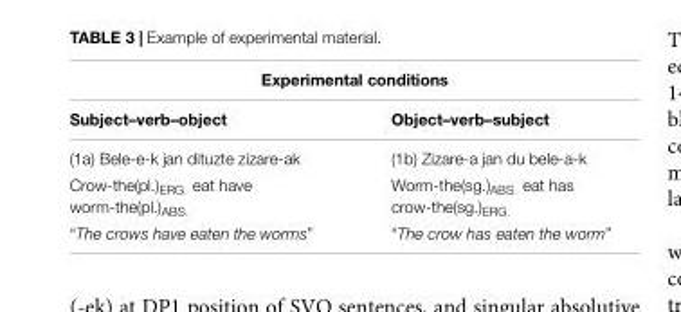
<table><thead><tr><td colspan="2">Experimental conditions</td></tr><tr><td>Subject–verb–object</td><td>Object–verb–subject</td></tr></thead><tbody><tr><td>(1a) Bele-e-k jan dituzte zizare-ak</td><td>(1b) Zizare-a jan du bele-a-k</td></tr><tr><td>Crow-the(pl.)<sub>ERG.</sub> eat have worm-the(pl.)<sub>ABS.</sub></td><td>Worm-the(sg.)<sub>ABS.</sub> eat has crow-the(sg.)<sub>ERG.</sub></td></tr><tr><td>“The crows have eaten the worms”</td><td>“The crow has eaten the worm”</td></tr></tbody></table>